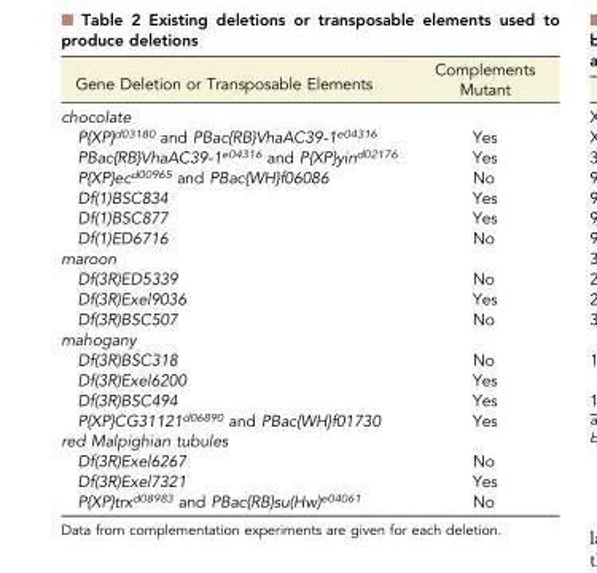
<table><thead><tr><td>Gene Deletion or Transposable Elements</td><td>Complements Mutant</td></tr></thead><tbody><tr><td colspan="2">chocolate</td></tr><tr><td>P{XP}<sup>d03180</sup> and PBac{RB}VhaAC39-1<sup>e04316</sup></td><td>Yes</td></tr><tr><td>PBac{RB}VhaAC39-1<sup>e04316</sup> and P{XP}yin<sup>d02176</sup></td><td>Yes</td></tr><tr><td>P{XP}ec<sup>d00965</sup> and PBac{WH}f06086</td><td>No</td></tr><tr><td>Df(1)BSC834</td><td>Yes</td></tr><tr><td>Df(1)BSC877</td><td>Yes</td></tr><tr><td>Df(1)ED6716</td><td>No</td></tr><tr><td colspan="2">maroon</td></tr><tr><td>Df(3R)ED5339</td><td>No</td></tr><tr><td>Df(3R)Exel9036</td><td>Yes</td></tr><tr><td>Df(3R)BSC507</td><td>No</td></tr><tr><td colspan="2">mahogany</td></tr><tr><td>Df(3R)BSC318</td><td>No</td></tr><tr><td>Df(3R)Exel6200</td><td>Yes</td></tr><tr><td>Df(3R)BSC494</td><td>Yes</td></tr><tr><td>P{XP}CG31121<sup>d06890</sup> and PBac{WH}f01730</td><td>Yes</td></tr><tr><td colspan="2">red Malpighian tubules</td></tr><tr><td>Df(3R)Exel6267</td><td>No</td></tr><tr><td>Df(3R)Exel7321</td><td>Yes</td></tr><tr><td>P{XP}trx<sup>d08983</sup> and PBac{RB}su(Hw)<sup>e04061</sup></td><td>No</td></tr></tbody></table>